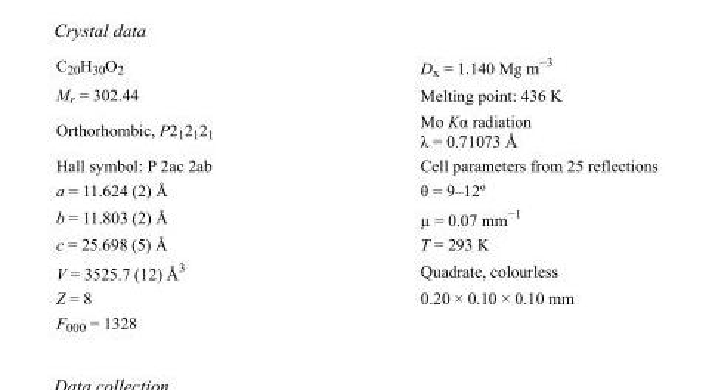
<table><tbody><tr><td>C<sub>20</sub>H<sub>30</sub>O<sub>2</sub></td><td>D<sub>x</sub> = 1.140 Mg m<sup>−3</sup></td></tr><tr><td>M<sub>r</sub> = 302.44</td><td>Melting point: 436 K</td></tr><tr><td>Orthorhombic, P2<sub>1</sub>2<sub>1</sub>2<sub>1</sub></td><td>Mo Kα radiation λ = 0.71073 Å</td></tr><tr><td>Hall symbol: P 2ac 2ab</td><td>Cell parameters from 25 reflections</td></tr><tr><td>a = 11.624 (2) Å</td><td>θ = 9–12º</td></tr><tr><td>b = 11.803 (2) Å</td><td>µ = 0.07 mm<sup>−1</sup></td></tr><tr><td>c = 25.698 (5) Å</td><td>T = 293 K</td></tr><tr><td>V = 3525.7 (12) Å<sup>3</sup></td><td>Quadrate, colourless</td></tr><tr><td>Z = 8</td><td>0.20 × 0.10 × 0.10 mm</td></tr><tr><td>F000 = 1328</td><td></td></tr></tbody></table>